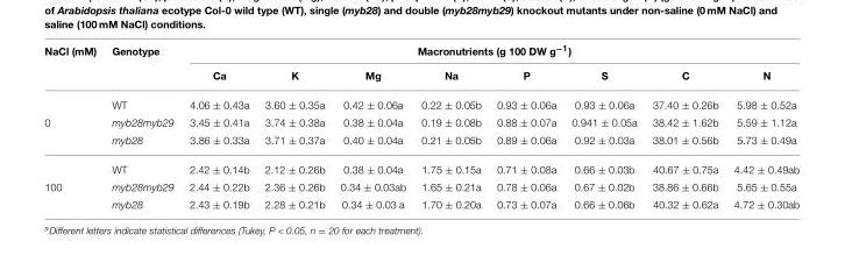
<table><thead><tr><td rowspan="2">NaCl (mM)</td><td rowspan="2">Genotype</td><td colspan="8">Macronutrients (g 100 DW g<sup>−1</sup>)</td></tr><tr><td>Ca</td><td>K</td><td>Mg</td><td>Na</td><td>P</td><td>S</td><td>C</td><td>N</td></tr></thead><tbody><tr><td></td><td>WT</td><td>4.06 ± 0.43a</td><td>3.60 ± 0.35a</td><td>0.42 ± 0.06a</td><td>0.22 ± 0.05b</td><td>0.93 ± 0.06a</td><td>0.93 ± 0.06a</td><td>37.40 ± 0.26b</td><td>5.98 ± 0.52a</td></tr><tr><td rowspan="3">0</td><td>myb28myb29</td><td>3.45 ± 0.41a</td><td>3.74 ± 0.38a</td><td>0.38 ± 0.04a</td><td>0.19 ± 0.08b</td><td>0.88 ± 0.07a</td><td>0.941 ± 0.05a</td><td>38.42 ± 1.62b</td><td>5.59 ± 1.12a</td></tr><tr><td>myb28</td><td>3.86 ± 0.33a</td><td>3.71 ± 0.37a</td><td>0.40 ± 0.04a</td><td>0.21 ± 0.05b</td><td>0.89 ± 0.06a</td><td>0.92 ± 0.03a</td><td>38.01 ± 0.56b</td><td>5.73 ± 0.49a</td></tr><tr><td>WT</td><td>2.42 ± 0.14b</td><td>2.12 ± 0.26b</td><td>0.38 ± 0.04a</td><td>1.75 ± 0.15a</td><td>0.71 ± 0.08a</td><td>0.66 ± 0.03b</td><td>40.67 ± 0.75a</td><td>4.42 ± 0.49ab</td></tr><tr><td rowspan="2">100</td><td>myb28myb29</td><td>2.44 ± 0.22b</td><td>2.36 ± 0.26b</td><td>0.34 ± 0.03ab</td><td>1.65 ± 0.21a</td><td>0.78 ± 0.06a</td><td>0.67 ± 0.02b</td><td>38.86 ± 0.66b</td><td>5.65 ± 0.55a</td></tr><tr><td>myb28</td><td>2.43 ± 0.19b</td><td>2.28 ± 0.21b</td><td>0.34 ± 0.03 a</td><td>1.70 ± 0.20a</td><td>0.73 ± 0.07a</td><td>0.66 ± 0.06b</td><td>40.32 ± 0.62a</td><td>4.72 ± 0.30ab</td></tr></tbody></table>